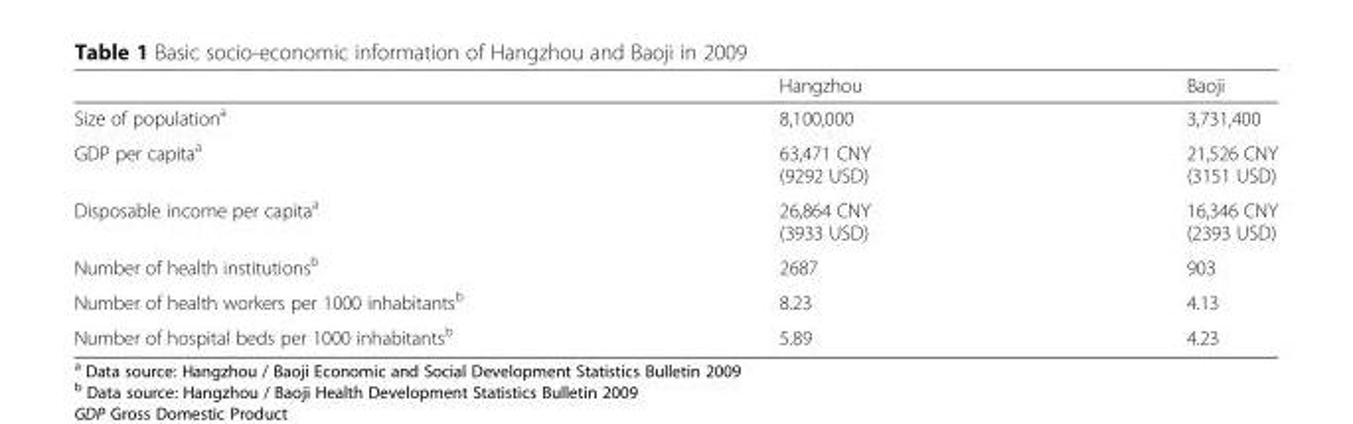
<table><thead><tr><td></td><td>Hangzhou</td><td>Baoji</td></tr></thead><tbody><tr><td>Size of population<sup>a</sup></td><td>8,100,000</td><td>3,731,400</td></tr><tr><td>GDP per capita<sup>a</sup></td><td>63,471 CNY (9292 USD)</td><td>21,526 CNY (3151 USD)</td></tr><tr><td>Disposable income per capita<sup>a</sup></td><td>26,864 CNY (3933 USD)</td><td>16,346 CNY (2393 USD)</td></tr><tr><td>Number of health institutions<sup>b</sup></td><td>2687</td><td>903</td></tr><tr><td>Number of health workers per 1000 inhabitants<sup>b</sup></td><td>8.23</td><td>4.13</td></tr><tr><td>Number of hospital beds per 1000 inhabitants<sup>b</sup></td><td>5.89</td><td>4.23</td></tr></tbody></table>